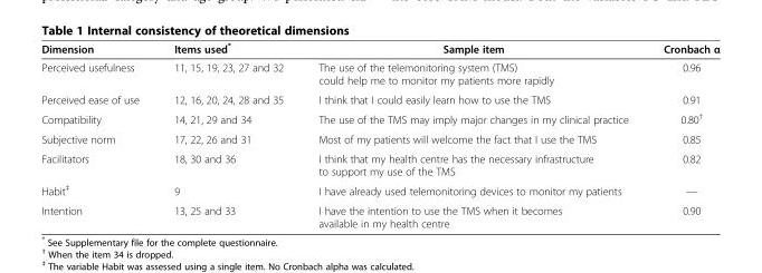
<table><thead><tr><td>Dimension</td><td>Items used*</td><td>Sample item</td><td>Cronbach α</td></tr></thead><tbody><tr><td>Perceived usefulness</td><td>11, 15, 19, 23, 27 and 32</td><td>The use of the telemonitoring system (TMS) could help me to monitor my patients more rapidly</td><td>0.96</td></tr><tr><td>Perceived ease of use</td><td>12, 16, 20, 24, 28 and 35</td><td>I think that I could easily learn how to use the TMS</td><td>0.91</td></tr><tr><td>Compatibility</td><td>14, 21, 29 and 34</td><td>The use of the TMS may imply major changes in my clinical practice</td><td>0.80<sup>†</sup></td></tr><tr><td>Subjective norm</td><td>17, 22, 26 and 31</td><td>Most of my patients will welcome the fact that I use the TMS</td><td>0.85</td></tr><tr><td>Facilitators</td><td>18, 30 and 36</td><td>I think that my health centre has the necessary infrastructure to support my use of the TMS</td><td>0.82</td></tr><tr><td>Habit<sup>‡</sup></td><td>9</td><td>I have already used telemonitoring devices to monitor my patients</td><td>—</td></tr><tr><td>Intention</td><td>13, 25 and 33</td><td>I have the intention to use the TMS when it becomes available in my health centre</td><td>0.90</td></tr></tbody></table>